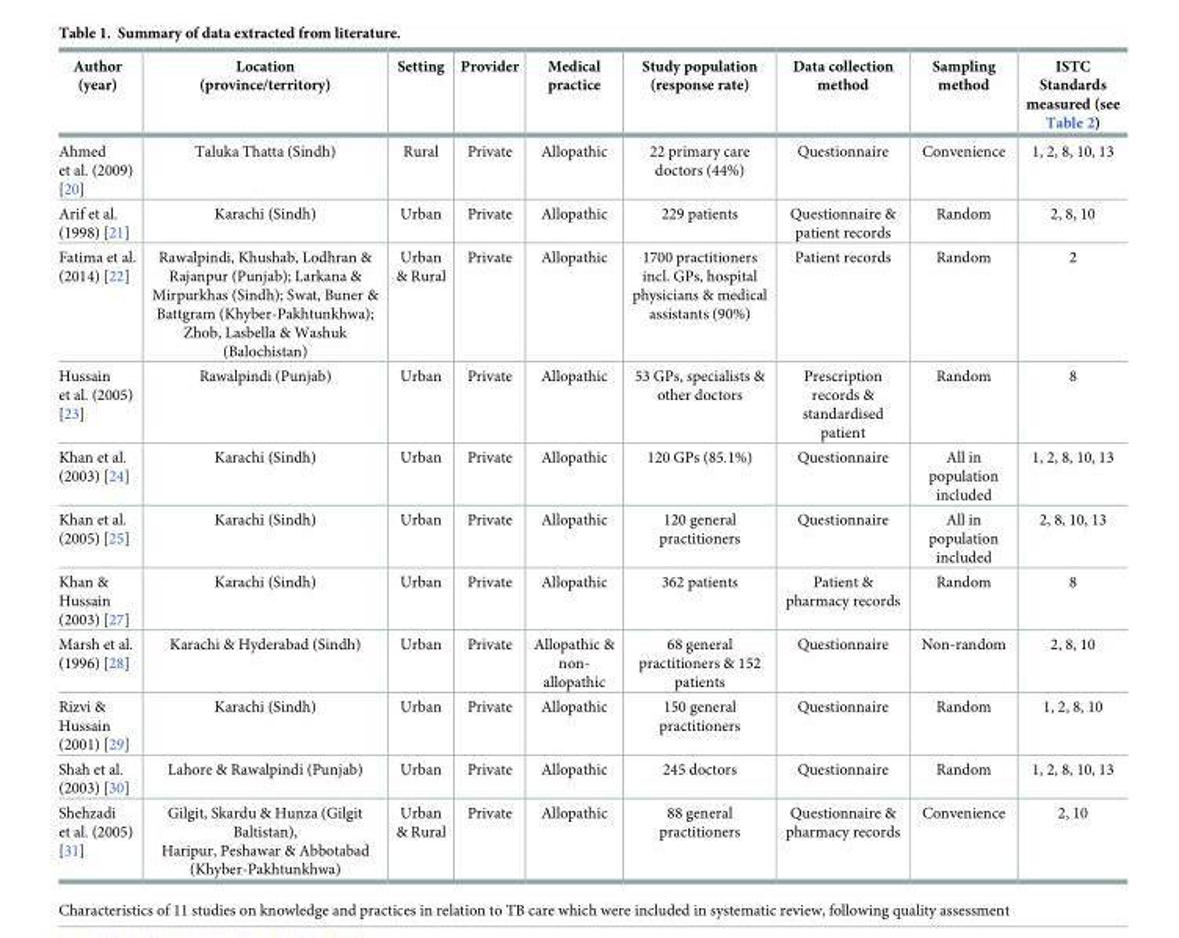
<table><thead><tr><td>Author (year)</td><td>Location (province/territory)</td><td>Setting</td><td>Provider</td><td>Medical practice</td><td>Study population (response rate)</td><td>Data collection method</td><td>Sampling method</td><td>ISTC Standards measured (see Table 2)</td></tr></thead><tbody><tr><td>Ahmed et al. (2009) [20]</td><td>Taluka Thatta (Sindh)</td><td>Rural</td><td>Private</td><td>Allopathic</td><td>22 primary care doctors (44%)</td><td>Questionnaire</td><td>Convenience</td><td>1, 2, 8, 10, 13</td></tr><tr><td>Arif et al. (1998) [21]</td><td>Karachi (Sindh)</td><td>Urban</td><td>Private</td><td>Allopathic</td><td>229 patients</td><td>Questionnaire &amp; patient records</td><td>Random</td><td>2, 8, 10</td></tr><tr><td>Fatima et al. (2014) [22]</td><td>Rawalpindi, Khushab, Lodhran &amp; Rajanpur (Punjab); Larkana &amp; Mirpurkhas (Sindh); Swat, Buner &amp; Battgram (Khyber-Pakhtunkhwa); Zhob, Lasbella &amp; Washuk (Balochistan)</td><td>Urban &amp; Rural</td><td>Private</td><td>Allopathic</td><td>1700 practitioners incl. GPs, hospital physicians &amp; medical assistants (90%)</td><td>Patient records</td><td>Random</td><td>2</td></tr><tr><td>Hussain et al. (2005) [23]</td><td>Rawalpindi (Punjab)</td><td>Urban</td><td>Private</td><td>Allopathic</td><td>53 GPs, specialists &amp; other doctors</td><td>Prescription records &amp; standardised patient</td><td>Random</td><td>8</td></tr><tr><td>Khan et al. (2003) [24]</td><td>Karachi (Sindh)</td><td>Urban</td><td>Private</td><td>Allopathic</td><td>120 GPs (85.1%)</td><td>Questionnaire</td><td>All in population included</td><td>1, 2, 8, 10, 13</td></tr><tr><td>Khan et al. (2005) [25]</td><td>Karachi (Sindh)</td><td>Urban</td><td>Private</td><td>Allopathic</td><td>120 general practitioners</td><td>Questionnaire</td><td>All in population included</td><td>2, 8, 10, 13</td></tr><tr><td>Khan &amp; Hussain (2003) [27]</td><td>Karachi (Sindh)</td><td>Urban</td><td>Private</td><td>Allopathic</td><td>362 patients</td><td>Patient &amp; pharmacy records</td><td>Random</td><td>8</td></tr><tr><td>Marsh et al. (1996) [28]</td><td>Karachi &amp; Hyderabad (Sindh)</td><td>Urban</td><td>Private</td><td>Allopathic &amp; non- allopathic</td><td>68 general practitioners &amp; 152 patients</td><td>Questionnaire</td><td>Non-random</td><td>2, 8, 10</td></tr><tr><td>Rizvi &amp; Hussain (2001) [29]</td><td>Karachi (Sindh)</td><td>Urban</td><td>Private</td><td>Allopathic</td><td>150 general practitioners</td><td>Questionnaire</td><td>Random</td><td>1, 2, 8, 10</td></tr><tr><td>Shah et al. (2003) [30]</td><td>Lahore &amp; Rawalpindi (Punjab)</td><td>Urban</td><td>Private</td><td>Allopathic</td><td>245 doctors</td><td>Questionnaire</td><td>Random</td><td>1, 2, 8, 10, 13</td></tr><tr><td>Shehzadi et al. (2005) [31]</td><td>Gilgit, Skardu &amp; Hunza (Gilgit Baltistan), Haripur, Peshawar &amp; Abbotabad (Khyber-Pakhtunkhwa)</td><td>Urban &amp; Rural</td><td>Private</td><td>Allopathic</td><td>88 general practitioners</td><td>Questionnaire &amp; pharmacy records</td><td>Convenience</td><td>2, 10</td></tr></tbody></table>